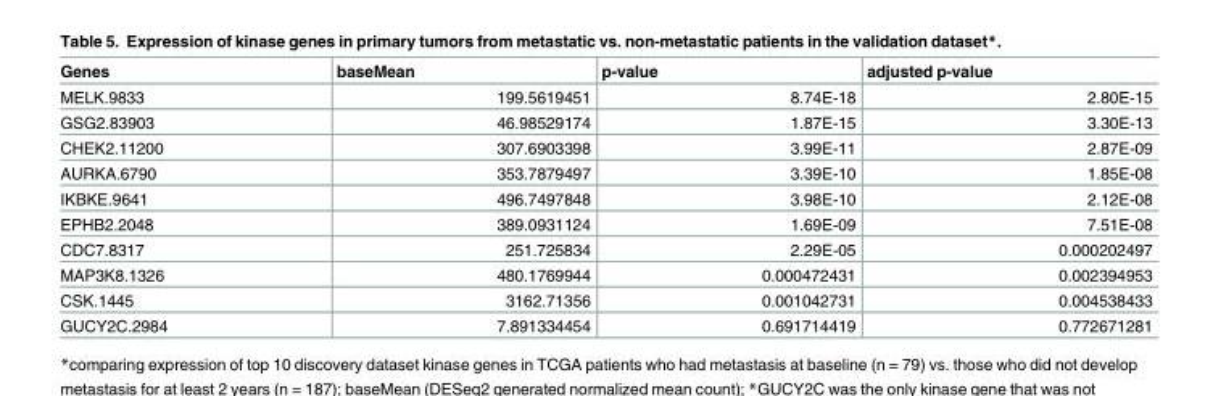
<table><thead><tr><td>Genes</td><td>baseMean</td><td>p-value</td><td>adjusted p-value</td></tr></thead><tbody><tr><td>MELK.9833</td><td>199.5619451</td><td>8.74E-18</td><td>2.80E-15</td></tr><tr><td>GSG2.83903</td><td>46.98529174</td><td>1.87E-15</td><td>3.30E-13</td></tr><tr><td>CHEK2.11200</td><td>307.6903398</td><td>3.99E-11</td><td>2.87E-09</td></tr><tr><td>AURKA.6790</td><td>353.7879497</td><td>3.39E-10</td><td>1.85E-08</td></tr><tr><td>IKBKE.9641</td><td>496.7497848</td><td>3.98E-10</td><td>2.12E-08</td></tr><tr><td>EPHB2.2048</td><td>389.0931124</td><td>1.69E-09</td><td>7.51E-08</td></tr><tr><td>CDC7.8317</td><td>251.725834</td><td>2.29E-05</td><td>0.000202497</td></tr><tr><td>MAP3K8.1326</td><td>480.1769944</td><td>0.000472431</td><td>0.002394953</td></tr><tr><td>CSK.1445</td><td>3162.71356</td><td>0.001042731</td><td>0.004538433</td></tr><tr><td>GUCY2C.2984</td><td>7.891334454</td><td>0.691714419</td><td>0.772671281</td></tr></tbody></table>